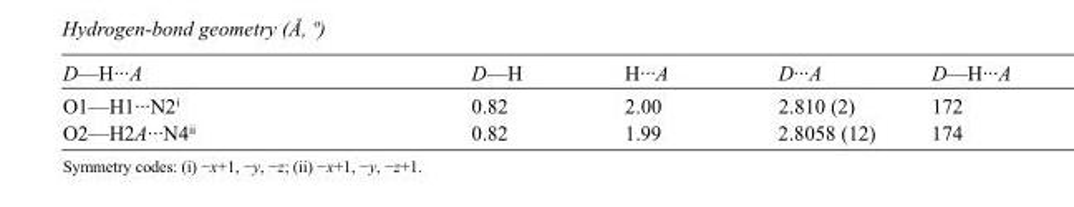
<table><tbody><tr><td>D—H···A</td><td>D—H</td><td>H···A</td><td>D···A</td><td>D—H···A</td></tr><tr><td>O1—H1···N2<sup>i</sup></td><td>0.82</td><td>2.00</td><td>2.810 (2)</td><td>172</td></tr><tr><td>O2—H2A···N4<sup>ii</sup></td><td>0.82</td><td>1.99</td><td>2.8058 (12)</td><td>174</td></tr></tbody></table>